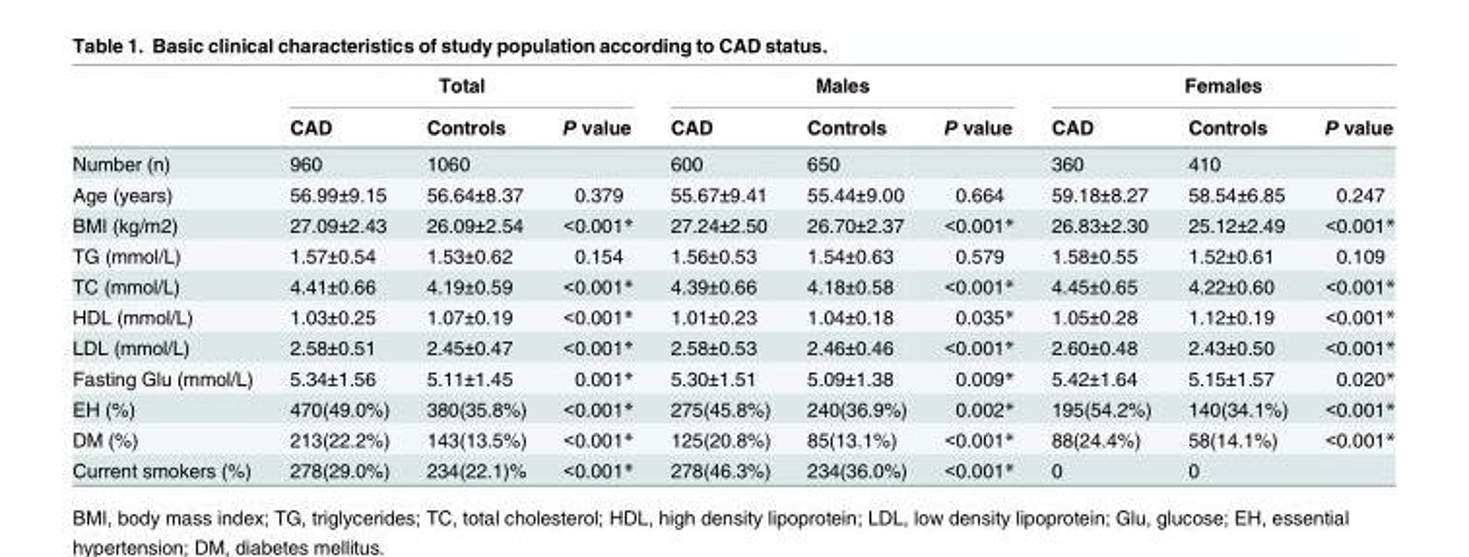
<table><thead><tr><td rowspan="2"></td><td colspan="3">Total</td><td colspan="3">Males</td><td colspan="3">Females</td></tr><tr><td>CAD</td><td>Controls</td><td>P value</td><td>CAD</td><td>Controls</td><td>P value</td><td>CAD</td><td>Controls</td><td>P value</td></tr></thead><tbody><tr><td>Number (n)</td><td>960</td><td>1060</td><td></td><td>600</td><td>650</td><td></td><td>360</td><td>410</td><td></td></tr><tr><td>Age (years)</td><td>56.99±9.15</td><td>56.64±8.37</td><td>0.379</td><td>55.67±9.41</td><td>55.44±9.00</td><td>0.664</td><td>59.18±8.27</td><td>58.54±6.85</td><td>0.247</td></tr><tr><td>BMI (kg/m2)</td><td>27.09±2.43</td><td>26.09±2.54</td><td>&lt;0.001*</td><td>27.24±2.50</td><td>26.70±2.37</td><td>&lt;0.001*</td><td>26.83±2.30</td><td>25.12±2.49</td><td>&lt;0.001*</td></tr><tr><td>TG (mmol/L)</td><td>1.57±0.54</td><td>1.53±0.62</td><td>0.154</td><td>1.56±0.53</td><td>1.54±0.63</td><td>0.579</td><td>1.58±0.55</td><td>1.52±0.61</td><td>0.109</td></tr><tr><td>TC (mmol/L)</td><td>4.41±0.66</td><td>4.19±0.59</td><td>&lt;0.001*</td><td>4.39±0.66</td><td>4.18±0.58</td><td>&lt;0.001*</td><td>4.45±0.65</td><td>4.22±0.60</td><td>&lt;0.001*</td></tr><tr><td>HDL (mmol/L)</td><td>1.03±0.25</td><td>1.07±0.19</td><td>&lt;0.001*</td><td>1.01±0.23</td><td>1.04±0.18</td><td>0.035*</td><td>1.05±0.28</td><td>1.12±0.19</td><td>&lt;0.001*</td></tr><tr><td>LDL (mmol/L)</td><td>2.58±0.51</td><td>2.45±0.47</td><td>&lt;0.001*</td><td>2.58±0.53</td><td>2.46±0.46</td><td>&lt;0.001*</td><td>2.60±0.48</td><td>2.43±0.50</td><td>&lt;0.001*</td></tr><tr><td>Fasting Glu (mmol/L)</td><td>5.34±1.56</td><td>5.11±1.45</td><td>0.001*</td><td>5.30±1.51</td><td>5.09±1.38</td><td>0.009*</td><td>5.42±1.64</td><td>5.15±1.57</td><td>0.020*</td></tr><tr><td>EH (%)</td><td>470(49.0%)</td><td>380(35.8%)</td><td>&lt;0.001*</td><td>275(45.8%)</td><td>240(36.9%)</td><td>0.002*</td><td>195(54.2%)</td><td>140(34.1%)</td><td>&lt;0.001*</td></tr><tr><td>DM (%)</td><td>213(22.2%)</td><td>143(13.5%)</td><td>&lt;0.001*</td><td>125(20.8%)</td><td>85(13.1%)</td><td>&lt;0.001*</td><td>88(24.4%)</td><td>58(14.1%)</td><td>&lt;0.001*</td></tr><tr><td>Current smokers (%)</td><td>278(29.0%)</td><td>234(22.1)%</td><td>&lt;0.001*</td><td>278(46.3%)</td><td>234(36.0%)</td><td>&lt;0.001*</td><td>0</td><td>0</td><td></td></tr></tbody></table>